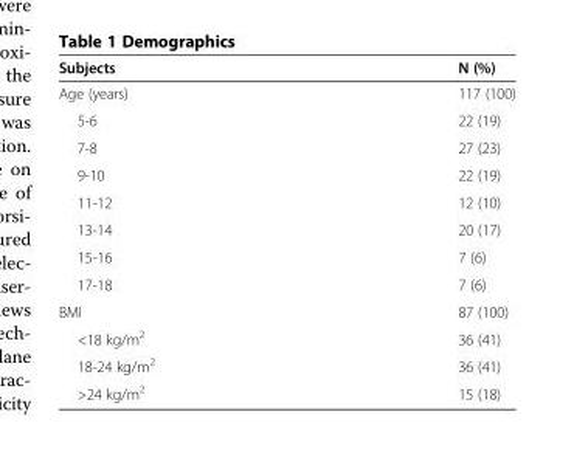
<table><thead><tr><td>Subjects</td><td>N (%)</td></tr></thead><tbody><tr><td>Age (years)</td><td>117 (100)</td></tr><tr><td>5-6</td><td>22 (19)</td></tr><tr><td>7-8</td><td>27 (23)</td></tr><tr><td>9-10</td><td>22 (19)</td></tr><tr><td>11-12</td><td>12 (10)</td></tr><tr><td>13-14</td><td>20 (17)</td></tr><tr><td>15-16</td><td>7 (6)</td></tr><tr><td>17-18</td><td>7 (6)</td></tr><tr><td>BMI</td><td>87 (100)</td></tr><tr><td>&lt;18 kg/m<sup>2</sup></td><td>36 (41)</td></tr><tr><td>18-24 kg/m<sup>2</sup></td><td>36 (41)</td></tr><tr><td>&gt;24 kg/m<sup>2</sup></td><td>15 (18)</td></tr></tbody></table>